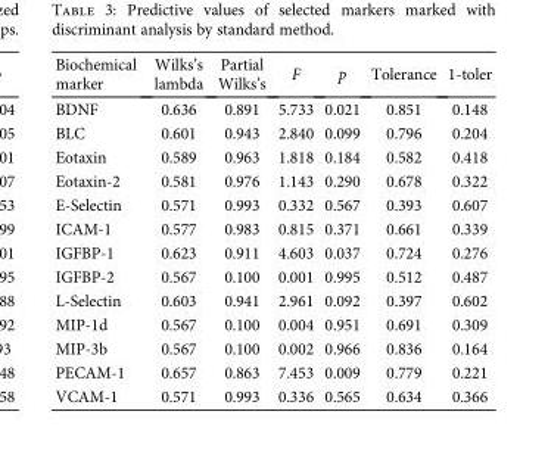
<table><thead><tr><td>Biochemical marker</td><td>Wilks’s lambda</td><td>Partial Wilks’s</td><td>F</td><td>p</td><td>Tolerance</td><td>1-toler</td></tr></thead><tbody><tr><td>BDNF</td><td>0.636</td><td>0.891</td><td>5.733</td><td>0.021</td><td>0.851</td><td>0.148</td></tr><tr><td>BLC</td><td>0.601</td><td>0.943</td><td>2.840</td><td>0.099</td><td>0.796</td><td>0.204</td></tr><tr><td>Eotaxin</td><td>0.589</td><td>0.963</td><td>1.818</td><td>0.184</td><td>0.582</td><td>0.418</td></tr><tr><td>Eotaxin-2</td><td>0.581</td><td>0.976</td><td>1.143</td><td>0.290</td><td>0.678</td><td>0.322</td></tr><tr><td>E-Selectin</td><td>0.571</td><td>0.993</td><td>0.332</td><td>0.567</td><td>0.393</td><td>0.607</td></tr><tr><td>ICAM-1</td><td>0.577</td><td>0.983</td><td>0.815</td><td>0.371</td><td>0.661</td><td>0.339</td></tr><tr><td>IGFBP-1</td><td>0.623</td><td>0.911</td><td>4.603</td><td>0.037</td><td>0.724</td><td>0.276</td></tr><tr><td>IGFBP-2</td><td>0.567</td><td>0.100</td><td>0.001</td><td>0.995</td><td>0.512</td><td>0.487</td></tr><tr><td>L-Selectin</td><td>0.603</td><td>0.941</td><td>2.961</td><td>0.092</td><td>0.397</td><td>0.602</td></tr><tr><td>MIP-1d</td><td>0.567</td><td>0.100</td><td>0.004</td><td>0.951</td><td>0.691</td><td>0.309</td></tr><tr><td>MIP-3b</td><td>0.567</td><td>0.100</td><td>0.002</td><td>0.966</td><td>0.836</td><td>0.164</td></tr><tr><td>PECAM-1</td><td>0.657</td><td>0.863</td><td>7.453</td><td>0.009</td><td>0.779</td><td>0.221</td></tr><tr><td>VCAM-1</td><td>0.571</td><td>0.993</td><td>0.336</td><td>0.565</td><td>0.634</td><td>0.366</td></tr></tbody></table>